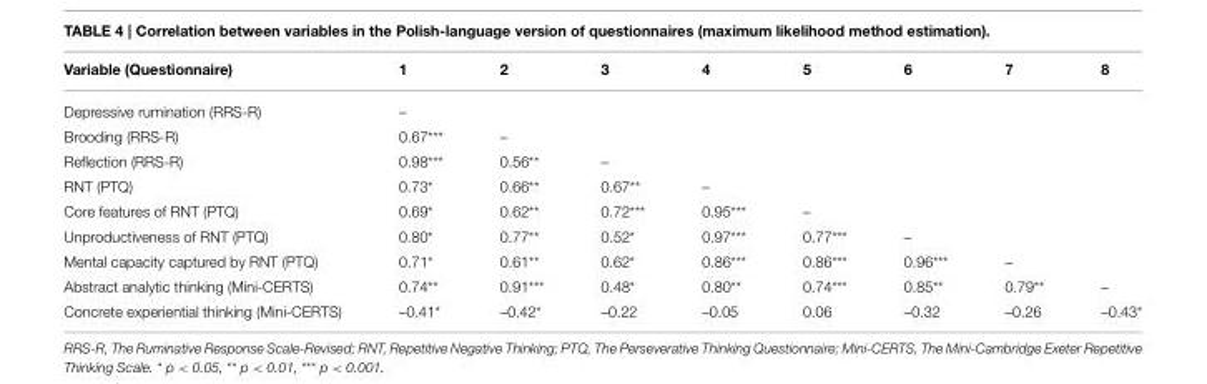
<table><thead><tr><td>Variable (Questionnaire)</td><td>1</td><td>2</td><td>3</td><td>4</td><td>5</td><td>6</td><td>7</td><td>8</td></tr></thead><tbody><tr><td>Depressive rumination (RRS-R)</td><td>–</td><td></td><td></td><td></td><td></td><td></td><td></td><td></td></tr><tr><td>Brooding (RRS-R)</td><td>0.67***</td><td>–</td><td></td><td></td><td></td><td></td><td></td><td></td></tr><tr><td>Reflection (RRS-R)</td><td>0.98***</td><td>0.56**</td><td>–</td><td></td><td></td><td></td><td></td><td></td></tr><tr><td>RNT (PTQ)</td><td>0.73*</td><td>0.66**</td><td>0.67**</td><td>–</td><td></td><td></td><td></td><td></td></tr><tr><td>Core features of RNT (PTQ)</td><td>0.69*</td><td>0.62**</td><td>0.72***</td><td>0.95***</td><td>–</td><td></td><td></td><td></td></tr><tr><td>Unproductiveness of RNT (PTQ)</td><td>0.80*</td><td>0.77**</td><td>0.52*</td><td>0.97***</td><td>0.77***</td><td>–</td><td></td><td></td></tr><tr><td>Mental capacity captured by RNT (PTQ)</td><td>0.71*</td><td>0.61**</td><td>0.62*</td><td>0.86***</td><td>0.86***</td><td>0.96***</td><td>–</td><td></td></tr><tr><td>Abstract analytic thinking (Mini-CERTS)</td><td>0.74**</td><td>0.91***</td><td>0.48*</td><td>0.80**</td><td>0.74***</td><td>0.85**</td><td>0.79**</td><td>–</td></tr><tr><td>Concrete experiential thinking (Mini-CERTS)</td><td>–0.41*</td><td>–0.42*</td><td>–0.22</td><td>–0.05</td><td>0.06</td><td>–0.32</td><td>–0.26</td><td>–0.43*</td></tr></tbody></table>